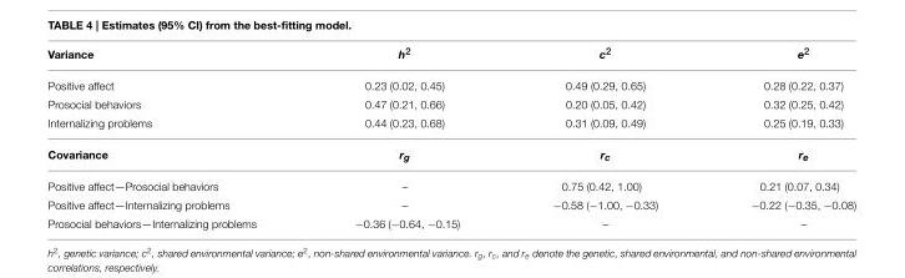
<table><thead><tr><td>Variance</td><td>h<sup>2</sup></td><td>c<sup>2</sup></td><td>e<sup>2</sup></td></tr></thead><tbody><tr><td>Positive affect</td><td>0.23 (0.02, 0.45)</td><td>0.49 (0.29, 0.65)</td><td>0.28 (0.22, 0.37)</td></tr><tr><td>Prosocial behaviors</td><td>0.47 (0.21, 0.66)</td><td>0.20 (0.05, 0.42)</td><td>0.32 (0.25, 0.42)</td></tr><tr><td>Internalizing problems</td><td>0.44 (0.23, 0.68)</td><td>0.31 (0.09, 0.49)</td><td>0.25 (0.19, 0.33)</td></tr><tr><td>Covariance</td><td>r<sub>g</sub></td><td>r<sub>c</sub></td><td>r<sub>e</sub></td></tr><tr><td>Positive affect—Prosocial behaviors</td><td>–</td><td>0.75 (0.42, 1.00)</td><td>0.21 (0.07, 0.34)</td></tr><tr><td>Positive affect—Internalizing problems</td><td>–</td><td>−0.58 (−1.00, −0.33)</td><td>−0.22 (−0.35, −0.08)</td></tr><tr><td>Prosocial behaviors—Internalizing problems</td><td>−0.36 (−0.64, −0.15)</td><td>–</td><td>–</td></tr></tbody></table>